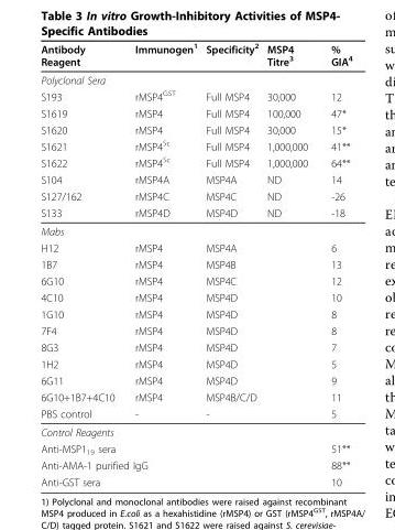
<table><thead><tr><td>Antibody Reagent</td><td>Immunogen<sup>1</sup></td><td>Specificity<sup>2</sup></td><td>MSP4 Titre<sup>3</sup></td><td>% GIA<sup>4</sup></td></tr></thead><tbody><tr><td colspan="5">Polyclonal Sera</td></tr><tr><td>S193</td><td>rMSP4<sup>GST</sup></td><td>Full MSP4</td><td>30,000</td><td>12</td></tr><tr><td>S1619</td><td>rMSP4</td><td>Full MSP4</td><td>100,000</td><td>47*</td></tr><tr><td>S1620</td><td>rMSP4</td><td>Full MSP4</td><td>30,000</td><td>15*</td></tr><tr><td>S1621</td><td>rMSP4<sup>Sc</sup></td><td>Full MSP4</td><td>1,000,000</td><td>41**</td></tr><tr><td>S1622</td><td>rMSP4<sup>Sc</sup></td><td>Full MSP4</td><td>1,000,000</td><td>64**</td></tr><tr><td>S104</td><td>rMSP4A</td><td>MSP4A</td><td>ND</td><td>14</td></tr><tr><td>S127/162</td><td>rMSP4C</td><td>MSP4C</td><td>ND</td><td>-26</td></tr><tr><td>S133</td><td>rMSP4D</td><td>MSP4D</td><td>ND</td><td>-18</td></tr><tr><td colspan="5">Mabs</td></tr><tr><td>H12</td><td>rMSP4</td><td>MSP4A</td><td></td><td>6</td></tr><tr><td>1B7</td><td>rMSP4</td><td>MSP4B</td><td></td><td>13</td></tr><tr><td>6G10</td><td>rMSP4</td><td>MSP4C</td><td></td><td>12</td></tr><tr><td>4C10</td><td>rMSP4</td><td>MSP4D</td><td></td><td>10</td></tr><tr><td>1G10</td><td>rMSP4</td><td>MSP4D</td><td></td><td>8</td></tr><tr><td>7F4</td><td>rMSP4</td><td>MSP4D</td><td></td><td>8</td></tr><tr><td>8G3</td><td>rMSP4</td><td>MSP4D</td><td></td><td>7</td></tr><tr><td>1H2</td><td>rMSP4</td><td>MSP4D</td><td></td><td>5</td></tr><tr><td>6G11</td><td>rMSP4</td><td>MSP4D</td><td></td><td>9</td></tr><tr><td>6G10+1B7+4C10</td><td>rMSP4</td><td>MSP4B/C/D</td><td></td><td>11</td></tr><tr><td>PBS control</td><td>-</td><td>-</td><td></td><td>5</td></tr><tr><td colspan="5">Control Reagents</td></tr><tr><td colspan="4">Anti-MSP1<sub>19</sub> sera</td><td>51**</td></tr><tr><td colspan="4">Anti-AMA-1 purified IgG</td><td>88**</td></tr><tr><td colspan="4">Anti-GST sera</td><td>10</td></tr></tbody></table>